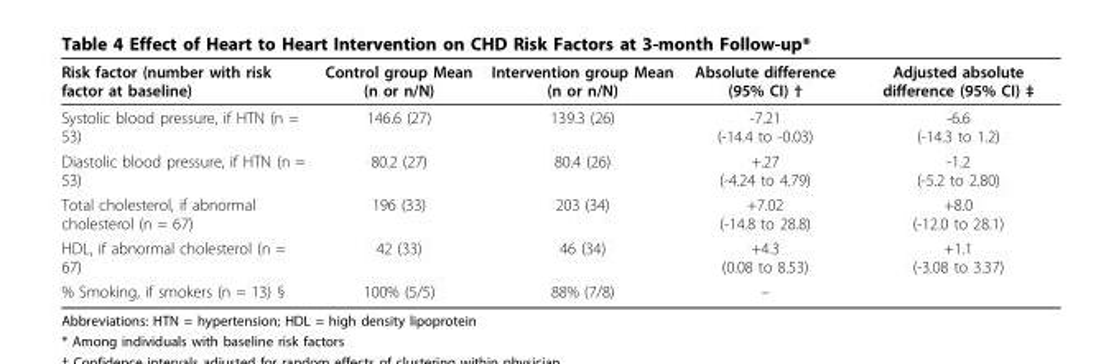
<table><thead><tr><td>Risk factor (number with risk factor at baseline)</td><td>Control group Mean (n or n/N)</td><td>Intervention group Mean (n or n/N)</td><td>Absolute difference (95% CI) †</td><td>Adjusted absolute difference (95% CI) ‡</td></tr></thead><tbody><tr><td>Systolic blood pressure, if HTN (n = 53)</td><td>146.6 (27)</td><td>139.3 (26)</td><td>-7.21 (-14.4 to -0.03)</td><td>-6.6 (-14.3 to 1.2)</td></tr><tr><td>Diastolic blood pressure, if HTN (n = 53)</td><td>80.2 (27)</td><td>80.4 (26)</td><td>+.27 (-4.24 to 4.79)</td><td>-1.2 (-5.2 to 2.80)</td></tr><tr><td>Total cholesterol, if abnormal cholesterol (n = 67)</td><td>196 (33)</td><td>203 (34)</td><td>+7.02 (-14.8 to 28.8)</td><td>+8.0 (-12.0 to 28.1)</td></tr><tr><td>HDL, if abnormal cholesterol (n = 67)</td><td>42 (33)</td><td>46 (34)</td><td>+4.3 (0.08 to 8.53)</td><td>+1.1 (-3.08 to 3.37)</td></tr><tr><td>% Smoking, if smokers (n = 13) §</td><td>100% (5/5)</td><td>88% (7/8)</td><td>–</td><td></td></tr></tbody></table>